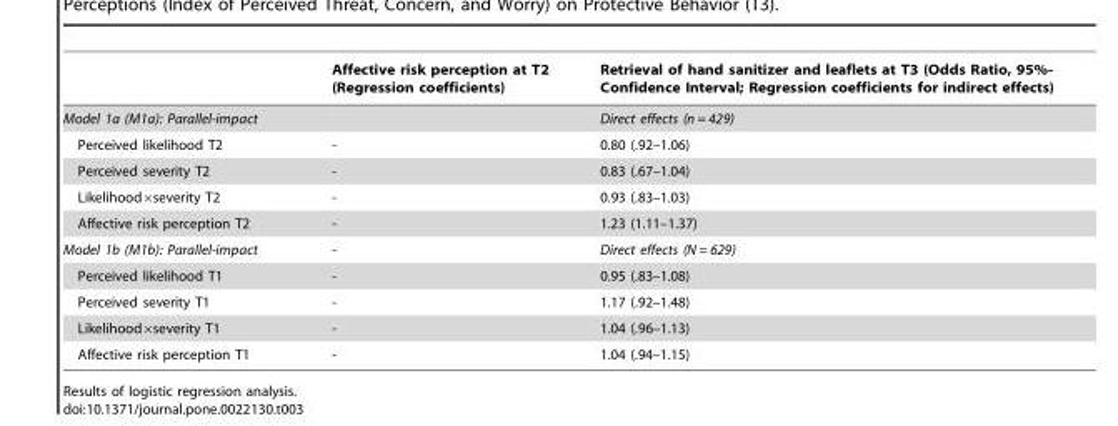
<table><thead><tr><td></td><td>Affective risk perception at T2 (Regression coefficients)</td><td>Retrieval of hand sanitizer and leaflets at T3 (Odds Ratio, 95%- Confidence Interval; Regression coefficients for indirect effects)</td></tr></thead><tbody><tr><td>Model 1a (M1a): Parallel-impact</td><td></td><td>Direct effects (n = 429)</td></tr><tr><td>Perceived likelihood T2</td><td>-</td><td>0.80 (.92–1.06)</td></tr><tr><td>Perceived severity T2</td><td>-</td><td>0.83 (.67–1.04)</td></tr><tr><td>Likelihood×severity T2</td><td>-</td><td>0.93 (.83–1.03)</td></tr><tr><td>Affective risk perception T2</td><td>-</td><td>1.23 (1.11–1.37)</td></tr><tr><td>Model 1b (M1b): Parallel-impact</td><td>-</td><td>Direct effects (N = 629)</td></tr><tr><td>Perceived likelihood T1</td><td>-</td><td>0.95 (.83–1.08)</td></tr><tr><td>Perceived severity T1</td><td>-</td><td>1.17 (.92–1.48)</td></tr><tr><td>Likelihood×severity T1</td><td>-</td><td>1.04 (.96–1.13)</td></tr><tr><td>Affective risk perception T1</td><td>-</td><td>1.04 (.94–1.15)</td></tr></tbody></table>